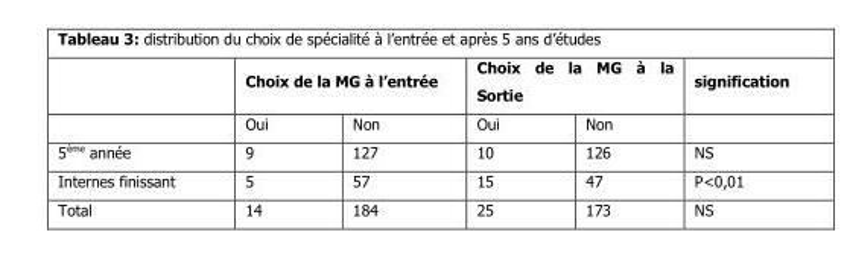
<table><thead><tr><td rowspan="2"></td><td colspan="2">Choix de la MG à l’entrée</td><td colspan="2">Choix de la MG à la Sortie</td><td rowspan="2">signification</td></tr><tr><td>Oui</td><td>Non</td><td>Oui</td><td>Non</td></tr></thead><tbody><tr><td>5<sup>ème</sup> année</td><td>9</td><td>127</td><td>10</td><td>126</td><td>NS</td></tr><tr><td>Internes finissant</td><td>5</td><td>57</td><td>15</td><td>47</td><td>P&lt;0,01</td></tr><tr><td>Total</td><td>14</td><td>184</td><td>25</td><td>173</td><td>NS</td></tr></tbody></table>